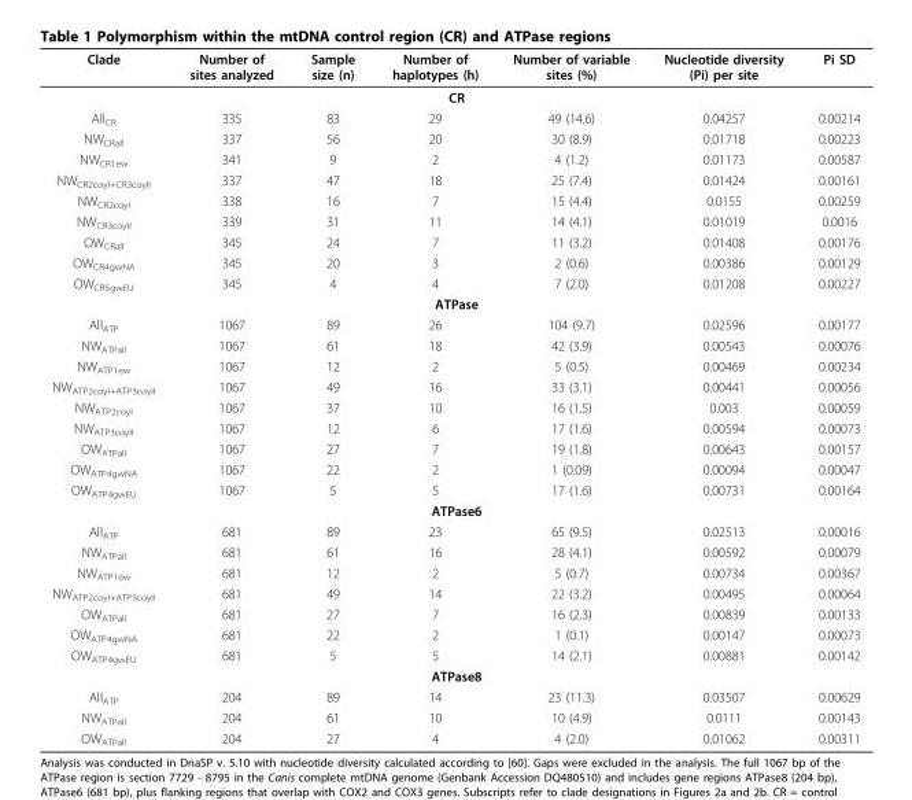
<table><thead><tr><td>Clade</td><td>Number of sites analyzed</td><td>Sample size (n)</td><td>Number of haplotypes (h)</td><td>Number of variable sites (%)</td><td>Nucleotide diversity (Pi) per site</td><td>Pi SD</td></tr></thead><tbody><tr><td colspan="7">CR</td></tr><tr><td>All<sub>CR</sub></td><td>335</td><td>83</td><td>29</td><td>49 (14.6)</td><td>0.04257</td><td>0.00214</td></tr><tr><td>NW<sub>CRall</sub></td><td>337</td><td>56</td><td>20</td><td>30 (8.9)</td><td>0.01718</td><td>0.00223</td></tr><tr><td>NW<sub>CR1ew</sub></td><td>341</td><td>9</td><td>2</td><td>4 (1.2)</td><td>0.01173</td><td>0.00587</td></tr><tr><td>NW<sub>CR2coyI+CR3coyII</sub></td><td>337</td><td>47</td><td>18</td><td>25 (7.4)</td><td>0.01424</td><td>0.00161</td></tr><tr><td>NW<sub>CR2coyI</sub></td><td>338</td><td>16</td><td>7</td><td>15 (4.4)</td><td>0.0155</td><td>0.00259</td></tr><tr><td>NW<sub>CR3coyII</sub></td><td>339</td><td>31</td><td>11</td><td>14 (4.1)</td><td>0.01019</td><td>0.0016</td></tr><tr><td>OW<sub>CRall</sub></td><td>345</td><td>24</td><td>7</td><td>11 (3.2)</td><td>0.01408</td><td>0.00176</td></tr><tr><td>OW<sub>CR4gwNA</sub></td><td>345</td><td>20</td><td>3</td><td>2 (0.6)</td><td>0.00386</td><td>0.00129</td></tr><tr><td>OW<sub>CR5gwEU</sub></td><td>345</td><td>4</td><td>4</td><td>7 (2.0)</td><td>0.01208</td><td>0.00227</td></tr><tr><td colspan="7">ATPase</td></tr><tr><td>All<sub>ATP</sub></td><td>1067</td><td>89</td><td>26</td><td>104 (9.7)</td><td>0.02596</td><td>0.00177</td></tr><tr><td>NW<sub>ATPall</sub></td><td>1067</td><td>61</td><td>18</td><td>42 (3.9)</td><td>0.00543</td><td>0.00076</td></tr><tr><td>NW<sub>ATP1ew</sub></td><td>1067</td><td>12</td><td>2</td><td>5 (0.5)</td><td>0.00469</td><td>0.00234</td></tr><tr><td>NW<sub>ATP2coyI+ATP3coyII</sub></td><td>1067</td><td>49</td><td>16</td><td>33 (3.1)</td><td>0.00441</td><td>0.00056</td></tr><tr><td>NW<sub>ATP2coyI</sub></td><td>1067</td><td>37</td><td>10</td><td>16 (1.5)</td><td>0.003</td><td>0.00059</td></tr><tr><td>NW<sub>ATP3coyII</sub></td><td>1067</td><td>12</td><td>6</td><td>17 (1.6)</td><td>0.00594</td><td>0.00073</td></tr><tr><td>OW<sub>ATPall</sub></td><td>1067</td><td>27</td><td>7</td><td>19 (1.8)</td><td>0.00643</td><td>0.00157</td></tr><tr><td>OW<sub>ATP4gwNA</sub></td><td>1067</td><td>22</td><td>2</td><td>1 (0.09)</td><td>0.00094</td><td>0.00047</td></tr><tr><td>OW<sub>ATP4gwEU</sub></td><td>1067</td><td>5</td><td>5</td><td>17 (1.6)</td><td>0.00731</td><td>0.00164</td></tr><tr><td colspan="7">ATPase6</td></tr><tr><td>All<sub>ATP</sub></td><td>681</td><td>89</td><td>23</td><td>65 (9.5)</td><td>0.02513</td><td>0.00016</td></tr><tr><td>NW<sub>ATPall</sub></td><td>681</td><td>61</td><td>16</td><td>28 (4.1)</td><td>0.00592</td><td>0.00079</td></tr><tr><td>NW<sub>ATP1ew</sub></td><td>681</td><td>12</td><td>2</td><td>5 (0.7)</td><td>0.00734</td><td>0.00367</td></tr><tr><td>NW<sub>ATP2coyI+ATP3coyII</sub></td><td>681</td><td>49</td><td>14</td><td>22 (3.2)</td><td>0.00495</td><td>0.00064</td></tr><tr><td>OW<sub>ATPall</sub></td><td>681</td><td>27</td><td>7</td><td>16 (2.3)</td><td>0.00839</td><td>0.00133</td></tr><tr><td>OW<sub>ATP4gwNA</sub></td><td>681</td><td>22</td><td>2</td><td>1 (0.1)</td><td>0.00147</td><td>0.00073</td></tr><tr><td>OW<sub>ATP4gwEU</sub></td><td>681</td><td>5</td><td>5</td><td>14 (2.1)</td><td>0.00881</td><td>0.00142</td></tr><tr><td colspan="7">ATPase8</td></tr><tr><td>All<sub>ATP</sub></td><td>204</td><td>89</td><td>14</td><td>23 (11.3)</td><td>0.03507</td><td>0.00629</td></tr><tr><td>NW<sub>ATPall</sub></td><td>204</td><td>61</td><td>10</td><td>10 (4.9)</td><td>0.0111</td><td>0.00143</td></tr><tr><td>OW<sub>ATPall</sub></td><td>204</td><td>27</td><td>4</td><td>4 (2.0)</td><td>0.01062</td><td>0.00311</td></tr></tbody></table>